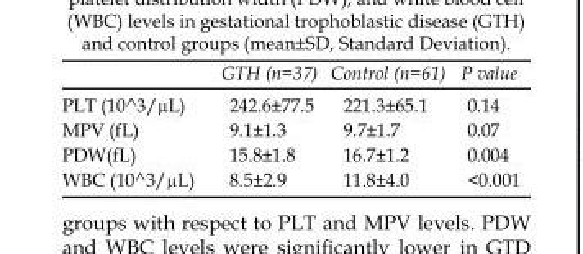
<table><thead><tr><td></td><td>GTH (n=37)</td><td>Control (n=61)</td><td>P value</td></tr></thead><tbody><tr><td>PLT (10^3/µL)</td><td>242.6±77.5</td><td>221.3±65.1</td><td>0.14</td></tr><tr><td>MPV (fL)</td><td>9.1±1.3</td><td>9.7±1.7</td><td>0.07</td></tr><tr><td>PDW(fL)</td><td>15.8±1.8</td><td>16.7±1.2</td><td>0.004</td></tr><tr><td>WBC (10^3/µL)</td><td>8.5±2.9</td><td>11.8±4.0</td><td>&lt;0.001</td></tr></tbody></table>